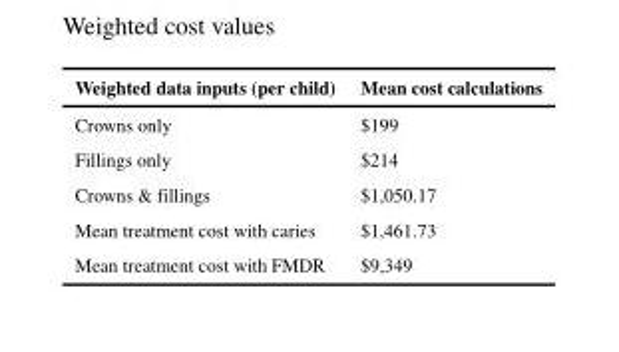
<table><thead><tr><td>Weighted data inputs (per child)</td><td>Mean cost calculations</td></tr></thead><tbody><tr><td>Crowns only</td><td>$199</td></tr><tr><td>Fillings only</td><td>$214</td></tr><tr><td>Crowns &amp; fillings</td><td>$1,050.17</td></tr><tr><td>Mean treatment cost with caries</td><td>$1,461.73</td></tr><tr><td>Mean treatment cost with FMDR</td><td>$9,349</td></tr></tbody></table>